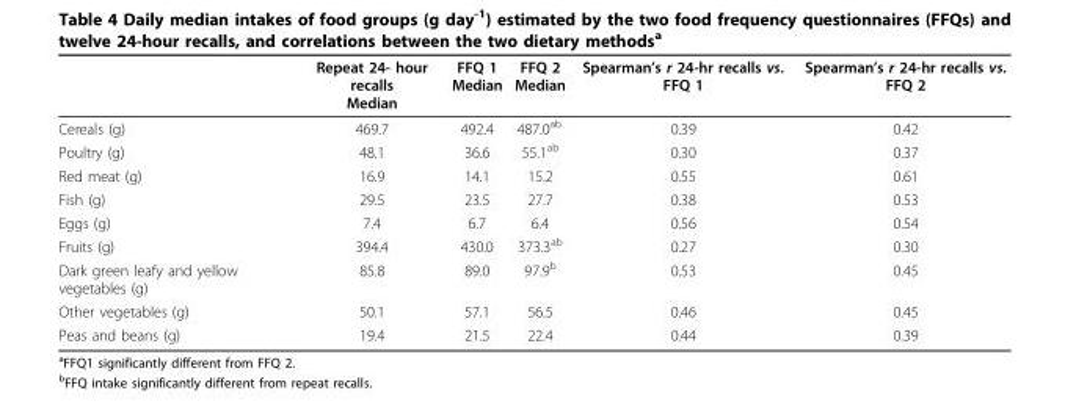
<table><thead><tr><td></td><td>Repeat 24- hour recalls Median</td><td>FFQ 1 Median</td><td>FFQ 2 Median</td><td>Spearman’s r 24-hr recalls vs. FFQ 1</td><td>Spearman’s r 24-hr recalls vs. FFQ 2</td></tr></thead><tbody><tr><td>Cereals (g)</td><td>469.7</td><td>492.4</td><td>487.0<sup>ab.</sup></td><td>0.39</td><td>0.42</td></tr><tr><td>Poultry (g)</td><td>48.1</td><td>36.6</td><td>55.1<sup>ab</sup></td><td>0.30</td><td>0.37</td></tr><tr><td>Red meat (g)</td><td>16.9</td><td>14.1</td><td>15.2</td><td>0.55</td><td>0.61</td></tr><tr><td>Fish (g)</td><td>29.5</td><td>23.5</td><td>27.7</td><td>0.38</td><td>0.53</td></tr><tr><td>Eggs (g)</td><td>7.4</td><td>6.7</td><td>6.4</td><td>0.56</td><td>0.54</td></tr><tr><td>Fruits (g)</td><td>394.4</td><td>430.0</td><td>373.3<sup>ab</sup></td><td>0.27</td><td>0.30</td></tr><tr><td>Dark green leafy and yellow vegetables (g)</td><td>85.8</td><td>89.0</td><td>97.9<sup>b</sup></td><td>0.53</td><td>0.45</td></tr><tr><td>Other vegetables (g)</td><td>50.1</td><td>57.1</td><td>56.5</td><td>0.46</td><td>0.45</td></tr><tr><td>Peas and beans (g)</td><td>19.4</td><td>21.5</td><td>22.4</td><td>0.44</td><td>0.39</td></tr></tbody></table>